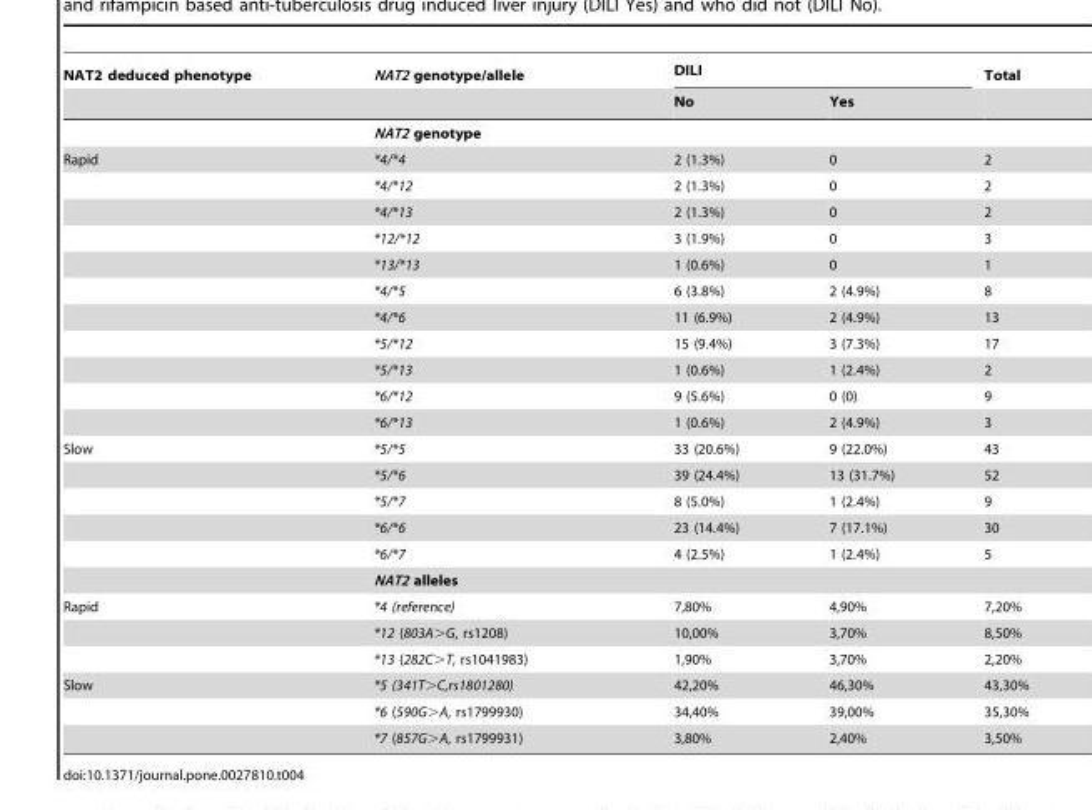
<table><thead><tr><td rowspan="2">NAT2 deduced phenotype</td><td rowspan="2">NAT2 genotype/allele</td><td colspan="2">DILI</td><td rowspan="2">Total</td></tr><tr><td>No</td><td>Yes</td></tr></thead><tbody><tr><td></td><td colspan="4">NAT2 genotype</td></tr><tr><td rowspan="11">Rapid</td><td>*4/*4</td><td>2 (1.3%)</td><td>0</td><td>2</td></tr><tr><td>*4/*12</td><td>2 (1.3%)</td><td>0</td><td>2</td></tr><tr><td>*4/*13</td><td>2 (1.3%)</td><td>0</td><td>2</td></tr><tr><td>*12/*12</td><td>3 (1.9%)</td><td>0</td><td>3</td></tr><tr><td>*13/*13</td><td>1 (0.6%)</td><td>0</td><td>1</td></tr><tr><td>*4/*5</td><td>6 (3.8%)</td><td>2 (4.9%)</td><td>8</td></tr><tr><td>*4/*6</td><td>11 (6.9%)</td><td>2 (4.9%)</td><td>13</td></tr><tr><td>*5/*12</td><td>15 (9.4%)</td><td>3 (7.3%)</td><td>17</td></tr><tr><td>*5/*13</td><td>1 (0.6%)</td><td>1 (2.4%)</td><td>2</td></tr><tr><td>*6/*12</td><td>9 (5.6%)</td><td>0 (0)</td><td>9</td></tr><tr><td>*6/*13</td><td>1 (0.6%)</td><td>2 (4.9%)</td><td>3</td></tr><tr><td rowspan="6">Slow</td><td>*5/*5</td><td>33 (20.6%)</td><td>9 (22.0%)</td><td>43</td></tr><tr><td>*5/*6</td><td>39 (24.4%)</td><td>13 (31.7%)</td><td>52</td></tr><tr><td>*5/*7</td><td>8 (5.0%)</td><td>1 (2.4%)</td><td>9</td></tr><tr><td>*6/*6</td><td>23 (14.4%)</td><td>7 (17.1%)</td><td>30</td></tr><tr><td>*6/*7</td><td>4 (2.5%)</td><td>1 (2.4%)</td><td>5</td></tr><tr><td colspan="4">NAT2 alleles</td></tr><tr><td rowspan="3">Rapid</td><td>*4 (reference)</td><td>7,80%</td><td>4,90%</td><td>7,20%</td></tr><tr><td>*12 (803A&gt;G, rs1208)</td><td>10,00%</td><td>3,70%</td><td>8,50%</td></tr><tr><td>*13 (282C&gt;T, rs1041983)</td><td>1,90%</td><td>3,70%</td><td>2,20%</td></tr><tr><td rowspan="3">Slow</td><td>*5 (341T&gt;C,rs1801280)</td><td>42,20%</td><td>46,30%</td><td>43,30%</td></tr><tr><td>*6 (590G&gt;A, rs1799930)</td><td>34,40%</td><td>39,00%</td><td>35,30%</td></tr><tr><td>*7 (857G&gt;A, rs1799931)</td><td>3,80%</td><td>2,40%</td><td>3,50%</td></tr></tbody></table>